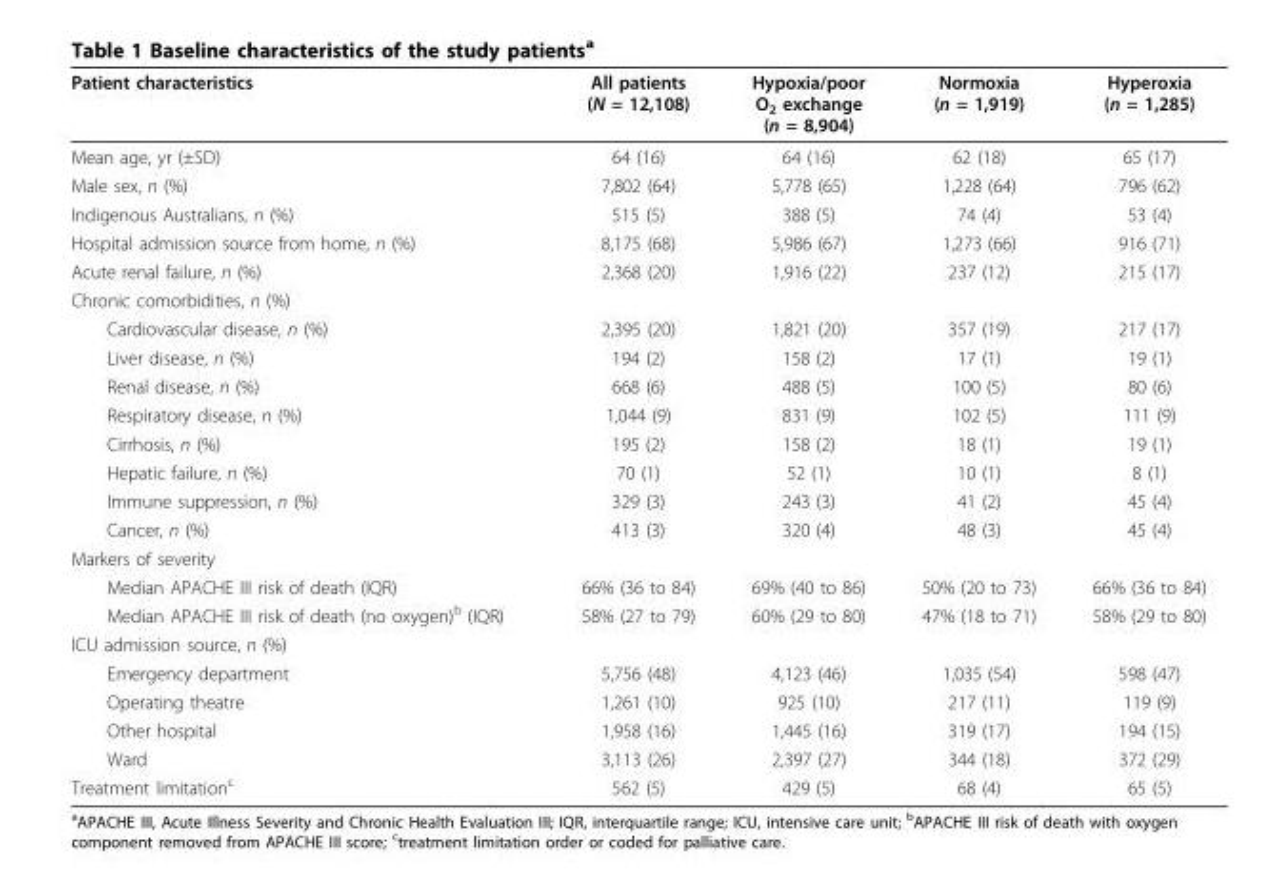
<table><thead><tr><td>Patient characteristics</td><td>All patients (N = 12,108)</td><td>Hypoxia/poor O<sub>2</sub> exchange (n = 8,904)</td><td>Normoxia (n = 1,919)</td><td>Hyperoxia (n = 1,285)</td></tr></thead><tbody><tr><td>Mean age, yr (±SD)</td><td>64 (16)</td><td>64 (16)</td><td>62 (18)</td><td>65 (17)</td></tr><tr><td>Male sex, n (%)</td><td>7,802 (64)</td><td>5,778 (65)</td><td>1,228 (64)</td><td>796 (62)</td></tr><tr><td>Indigenous Australians, n (%)</td><td>515 (5)</td><td>388 (5)</td><td>74 (4)</td><td>53 (4)</td></tr><tr><td>Hospital admission source from home, n (%)</td><td>8,175 (68)</td><td>5,986 (67)</td><td>1,273 (66)</td><td>916 (71)</td></tr><tr><td>Acute renal failure, n (%)</td><td>2,368 (20)</td><td>1,916 (22)</td><td>237 (12)</td><td>215 (17)</td></tr><tr><td colspan="5">Chronic comorbidities, n (%)</td></tr><tr><td>Cardiovascular disease, n (%)</td><td>2,395 (20)</td><td>1,821 (20)</td><td>357 (19)</td><td>217 (17)</td></tr><tr><td>Liver disease, n (%)</td><td>194 (2)</td><td>158 (2)</td><td>17 (1)</td><td>19 (1)</td></tr><tr><td>Renal disease, n (%)</td><td>668 (6)</td><td>488 (5)</td><td>100 (5)</td><td>80 (6)</td></tr><tr><td>Respiratory disease, n (%)</td><td>1,044 (9)</td><td>831 (9)</td><td>102 (5)</td><td>111 (9)</td></tr><tr><td>Cirrhosis, n (%)</td><td>195 (2)</td><td>158 (2)</td><td>18 (1)</td><td>19 (1)</td></tr><tr><td>Hepatic failure, n (%)</td><td>70 (1)</td><td>52 (1)</td><td>10 (1)</td><td>8 (1)</td></tr><tr><td>Immune suppression, n (%)</td><td>329 (3)</td><td>243 (3)</td><td>41 (2)</td><td>45 (4)</td></tr><tr><td>Cancer, n (%)</td><td>413 (3)</td><td>320 (4)</td><td>48 (3)</td><td>45 (4)</td></tr><tr><td colspan="5">Markers of severity</td></tr><tr><td>Median APACHE III risk of death (IQR)</td><td>66% (36 to 84)</td><td>69% (40 to 86)</td><td>50% (20 to 73)</td><td>66% (36 to 84)</td></tr><tr><td>Median APACHE III risk of death (no oxygen)<sup>b</sup> (IQR)</td><td>58% (27 to 79)</td><td>60% (29 to 80)</td><td>47% (18 to 71)</td><td>58% (29 to 80)</td></tr><tr><td colspan="5">ICU admission source, n (%)</td></tr><tr><td>Emergency department</td><td>5,756 (48)</td><td>4,123 (46)</td><td>1,035 (54)</td><td>598 (47)</td></tr><tr><td>Operating theatre</td><td>1,261 (10)</td><td>925 (10)</td><td>217 (11)</td><td>119 (9)</td></tr><tr><td>Other hospital</td><td>1,958 (16)</td><td>1,445 (16)</td><td>319 (17)</td><td>194 (15)</td></tr><tr><td>Ward</td><td>3,113 (26)</td><td>2,397 (27)</td><td>344 (18)</td><td>372 (29)</td></tr><tr><td>Treatment limitation<sup>c</sup></td><td>562 (5)</td><td>429 (5)</td><td>68 (4)</td><td>65 (5)</td></tr></tbody></table>